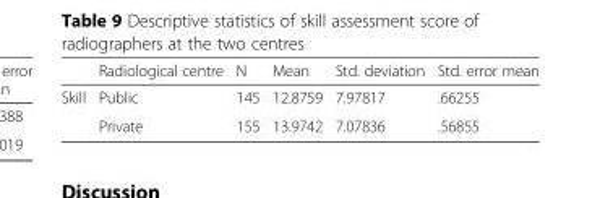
<table><thead><tr><td></td><td>Radiological centre</td><td>N</td><td>Mean</td><td>Std. deviation</td><td>Std. error mean</td></tr></thead><tbody><tr><td rowspan="2">Skill</td><td>Public</td><td>145</td><td>12.8759</td><td>7.97817</td><td>.66255</td></tr><tr><td>Private</td><td>155</td><td>13.9742</td><td>7.07836</td><td>.56855</td></tr></tbody></table>